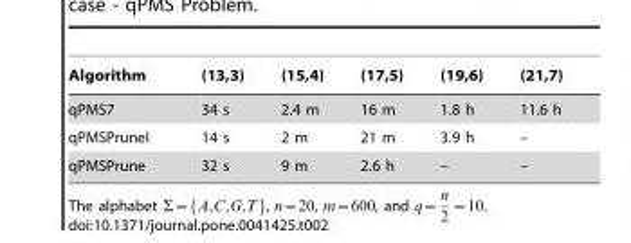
<table><thead><tr><td>Algorithm</td><td>(13,3)</td><td>(15,4)</td><td>(17,5)</td><td>(19,6)</td><td>(21,7)</td></tr></thead><tbody><tr><td>qPMS7</td><td>34 s</td><td>2.4 m</td><td>16 m</td><td>1.8 h</td><td>11.6 h</td></tr><tr><td>qPMSPruneI</td><td>14 s</td><td>2 m</td><td>21 m</td><td>3.9 h</td><td>–</td></tr><tr><td>qPMSPrune</td><td>32 s</td><td>9 m</td><td>2.6 h</td><td>–</td><td>–</td></tr></tbody></table>